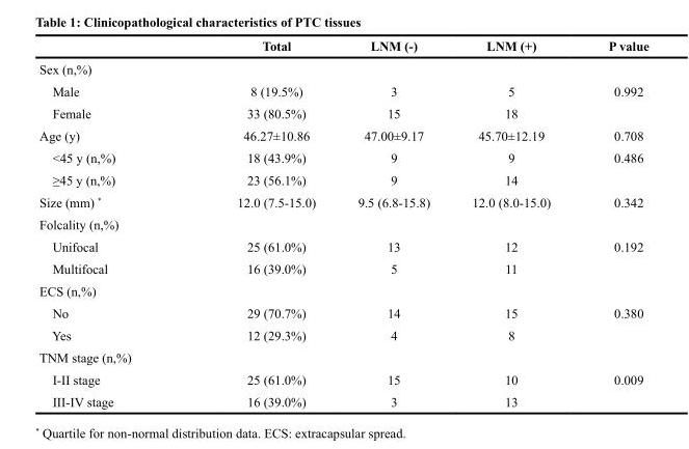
<table><thead><tr><td></td><td>Total</td><td>LNM (-)</td><td>LNM (+)</td><td>P value</td></tr></thead><tbody><tr><td colspan="5">Sex (n,%)</td></tr><tr><td>Male</td><td>8 (19.5%)</td><td>3</td><td>5</td><td>0.992</td></tr><tr><td>Female</td><td>33 (80.5%)</td><td>15</td><td>18</td><td></td></tr><tr><td>Age (y)</td><td>46.27±10.86</td><td>47.00±9.17</td><td>45.70±12.19</td><td>0.708</td></tr><tr><td>&lt;45 y (n,%)</td><td>18 (43.9%)</td><td>9</td><td>9</td><td>0.486</td></tr><tr><td>≥45 y (n,%)</td><td>23 (56.1%)</td><td>9</td><td>14</td><td></td></tr><tr><td>Size (mm) *</td><td>12.0 (7.5-15.0)</td><td>9.5 (6.8-15.8)</td><td>12.0 (8.0-15.0)</td><td>0.342</td></tr><tr><td colspan="5">Folcality (n,%)</td></tr><tr><td>Unifocal</td><td>25 (61.0%)</td><td>13</td><td>12</td><td>0.192</td></tr><tr><td>Multifocal</td><td>16 (39.0%)</td><td>5</td><td>11</td><td></td></tr><tr><td colspan="5">ECS (n,%)</td></tr><tr><td>No</td><td>29 (70.7%)</td><td>14</td><td>15</td><td>0.380</td></tr><tr><td>Yes</td><td>12 (29.3%)</td><td>4</td><td>8</td><td></td></tr><tr><td colspan="5">TNM stage (n,%)</td></tr><tr><td>I-II stage</td><td>25 (61.0%)</td><td>15</td><td>10</td><td>0.009</td></tr><tr><td>III-IV stage</td><td>16 (39.0%)</td><td>3</td><td>13</td><td></td></tr></tbody></table>